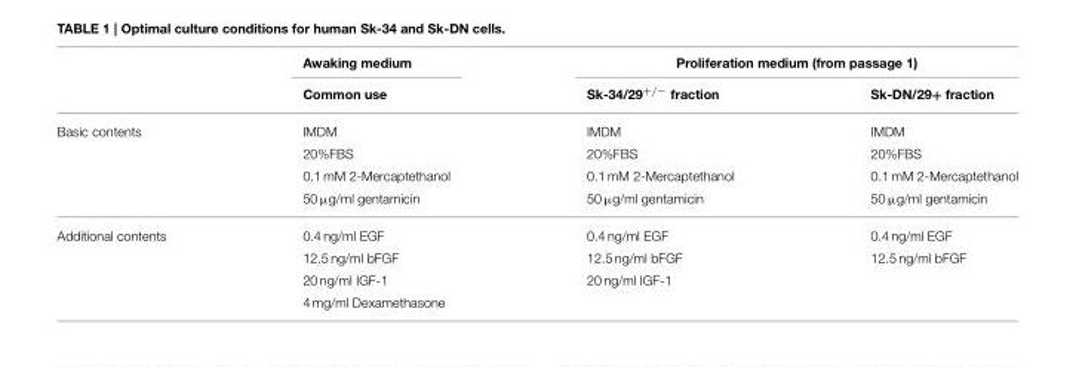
<table><thead><tr><td rowspan="2"></td><td rowspan="2">Awaking medium Common use</td><td colspan="2">Proliferation medium (from passage 1)</td></tr><tr><td>Sk-34/29<sup>+/−</sup> fraction</td><td>Sk-DN/29+ fraction</td></tr></thead><tbody><tr><td rowspan="4">Basic contents</td><td>IMDM</td><td>IMDM</td><td>IMDM</td></tr><tr><td>20%FBS</td><td>20%FBS</td><td>20%FBS</td></tr><tr><td>0.1 mM 2-Mercaptethanol</td><td>0.1 mM 2-Mercaptethanol</td><td>0.1 mM 2-Mercaptethanol</td></tr><tr><td>50 µg/ml gentamicin</td><td>50 µg/ml gentamicin</td><td>50 µg/ml gentamicin</td></tr><tr><td rowspan="4">Additional contents</td><td>0.4 ng/ml EGF</td><td>0.4 ng/ml EGF</td><td>0.4 ng/ml EGF</td></tr><tr><td>12.5 ng/ml bFGF</td><td>12.5 ng/ml bFGF</td><td>12.5 ng/ml bFGF</td></tr><tr><td>20 ng/ml IGF-1</td><td>20 ng/ml IGF-1</td><td></td></tr><tr><td>4 mg/ml Dexamethasone</td><td></td><td></td></tr></tbody></table>